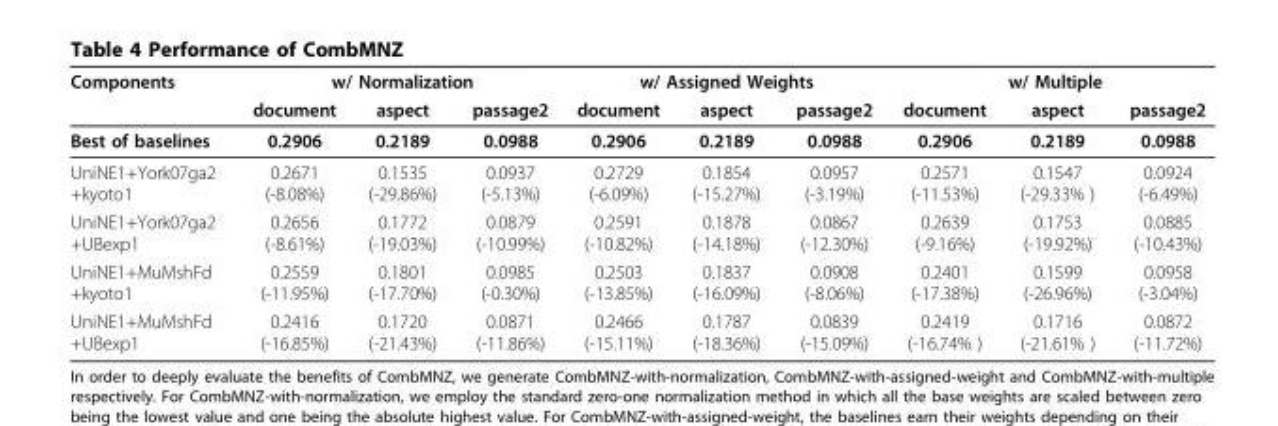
<table><thead><tr><td rowspan="2">Components</td><td colspan="3">w/ Normalization</td><td colspan="3">w/ Assigned Weights</td><td colspan="3">w/ Multiple</td></tr><tr><td>document</td><td>aspect</td><td>passage2</td><td>document</td><td>aspect</td><td>passage2</td><td>document</td><td>aspect</td><td>passage2</td></tr></thead><tbody><tr><td>Best of baselines</td><td>0.2906</td><td>0.2189</td><td>0.0988</td><td>0.2906</td><td>0.2189</td><td>0.0988</td><td>0.2906</td><td>0.2189</td><td>0.0988</td></tr><tr><td>UniNE1+York07ga2 +kyoto1</td><td>0.2671 (-8.08%)</td><td>0.1535 (-29.86%)</td><td>0.0937 (-5.13%)</td><td>0.2729 (-6.09%)</td><td>0.1854 (-15.27%)</td><td>0.0957 (-3.19%)</td><td>0.2571 (-11.53%)</td><td>0.1547 (-29.33% )</td><td>0.0924 (-6.49%)</td></tr><tr><td>UniNE1+York07ga2 +UBexp1</td><td>0.2656 (-8.61%)</td><td>0.1772 (-19.03%)</td><td>0.0879 (-10.99%)</td><td>0.2591 (-10.82%)</td><td>0.1878 (-14.18%)</td><td>0.0867 (-12.30%)</td><td>0.2639 (-9.16%)</td><td>0.1753 (-19.92%)</td><td>0.0885 (-10.43%)</td></tr><tr><td>UniNE1+MuMshFd +kyoto1</td><td>0.2559 (-11.95%)</td><td>0.1801 (-17.70%)</td><td>0.0985 (-0.30%)</td><td>0.2503 (-13.85%)</td><td>0.1837 (-16.09%)</td><td>0.0908 (-8.06%)</td><td>0.2401 (-17.38%)</td><td>0.1599 (-26.96%)</td><td>0.0958 (-3.04%)</td></tr><tr><td>UniNE1+MuMshFd +UBexp1</td><td>0.2416 (-16.85%)</td><td>0.1720 (-21.43%)</td><td>0.0871 (-11.86%)</td><td>0.2466 (-15.11%)</td><td>0.1787 (-18.36%)</td><td>0.0839 (-15.09%)</td><td>0.2419 (-16.74% )</td><td>0.1716 (-21.61% )</td><td>0.0872 (-11.72%)</td></tr></tbody></table>